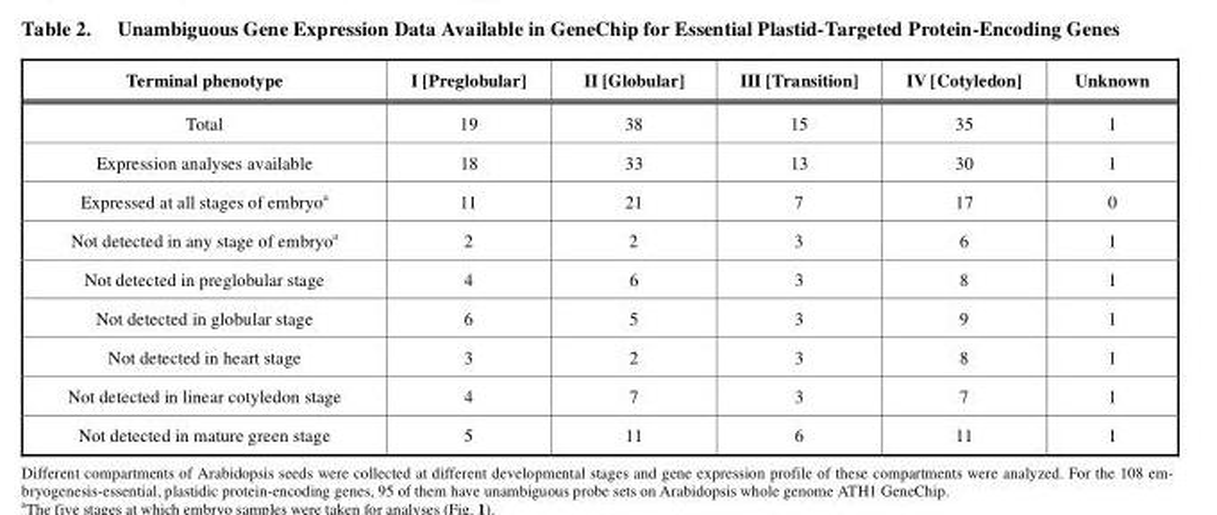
<table><thead><tr><td>Terminal phenotype</td><td>I [Preglobular]</td><td>II [Globular]</td><td>III [Transition]</td><td>IV [Cotyledon]</td><td>Unknown</td></tr></thead><tbody><tr><td>Total</td><td>19</td><td>38</td><td>15</td><td>35</td><td>1</td></tr><tr><td>Expression analyses available</td><td>18</td><td>33</td><td>13</td><td>30</td><td>1</td></tr><tr><td>Expressed at all stages of embryo<sup>a</sup></td><td>11</td><td>21</td><td>7</td><td>17</td><td>0</td></tr><tr><td>Not detected in any stage of embryo<sup>a</sup></td><td>2</td><td>2</td><td>3</td><td>6</td><td>1</td></tr><tr><td>Not detected in preglobular stage</td><td>4</td><td>6</td><td>3</td><td>8</td><td>1</td></tr><tr><td>Not detected in globular stage</td><td>6</td><td>5</td><td>3</td><td>9</td><td>1</td></tr><tr><td>Not detected in heart stage</td><td>3</td><td>2</td><td>3</td><td>8</td><td>1</td></tr><tr><td>Not detected in linear cotyledon stage</td><td>4</td><td>7</td><td>3</td><td>7</td><td>1</td></tr><tr><td>Not detected in mature green stage</td><td>5</td><td>11</td><td>6</td><td>11</td><td>1</td></tr></tbody></table>